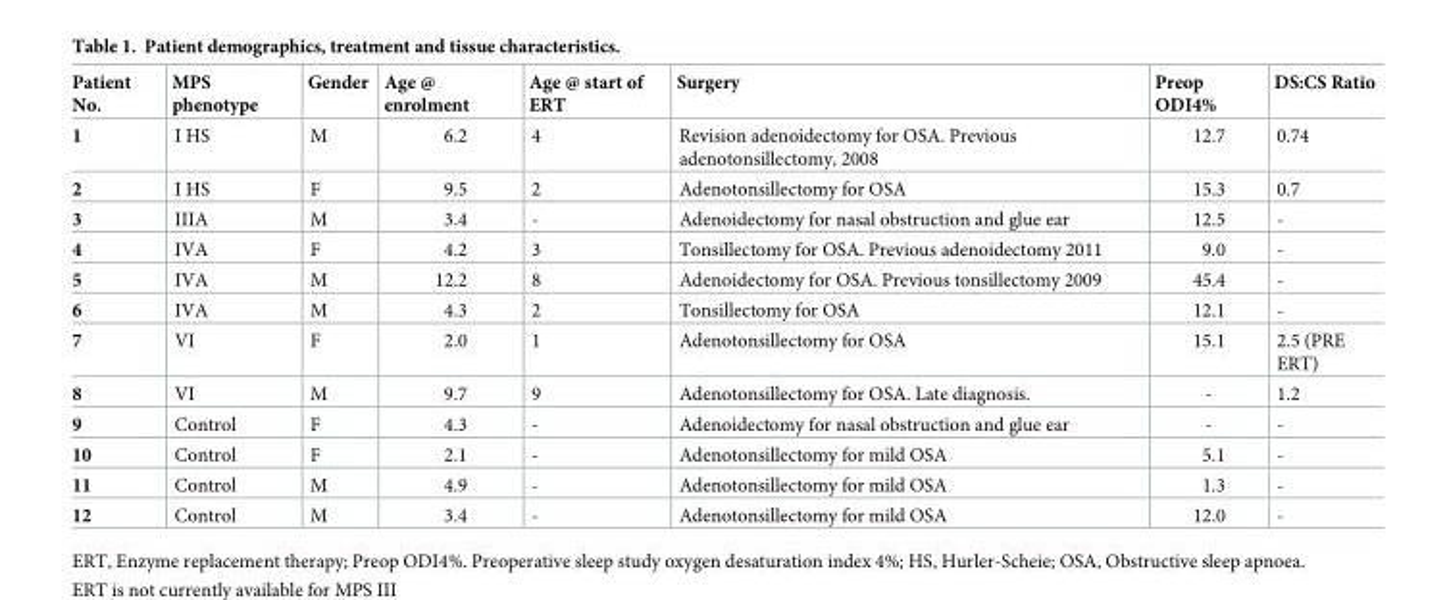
<table><thead><tr><td>Patient No.</td><td>MPS phenotype</td><td>Gender</td><td>Age @ enrolment</td><td>Age @ start of ERT</td><td>Surgery</td><td>Preop ODI4%</td><td>DS:CS Ratio</td></tr></thead><tbody><tr><td>1</td><td>I HS</td><td>M</td><td>6.2</td><td>4</td><td>Revision adenoidectomy for OSA. Previous adenotonsillectomy, 2008</td><td>12.7</td><td>0.74</td></tr><tr><td>2</td><td>I HS</td><td>F</td><td>9.5</td><td>2</td><td>Adenotonsillectomy for OSA</td><td>15.3</td><td>0.7</td></tr><tr><td>3</td><td>IIIA</td><td>M</td><td>3.4</td><td>-</td><td>Adenoidectomy for nasal obstruction and glue ear</td><td>12.5</td><td>-</td></tr><tr><td>4</td><td>IVA</td><td>F</td><td>4.2</td><td>3</td><td>Tonsillectomy for OSA. Previous adenoidectomy 2011</td><td>9.0</td><td>-</td></tr><tr><td>5</td><td>IVA</td><td>M</td><td>12.2</td><td>8</td><td>Adenoidectomy for OSA. Previous tonsillectomy 2009</td><td>45.4</td><td>-</td></tr><tr><td>6</td><td>IVA</td><td>M</td><td>4.3</td><td>2</td><td>Tonsillectomy for OSA</td><td>12.1</td><td>-</td></tr><tr><td>7</td><td>VI</td><td>F</td><td>2.0</td><td>1</td><td>Adenotonsillectomy for OSA</td><td>15.1</td><td>2.5 (PRE ERT)</td></tr><tr><td>8</td><td>VI</td><td>M</td><td>9.7</td><td>9</td><td>Adenotonsillectomy for OSA. Late diagnosis.</td><td>-</td><td>1.2</td></tr><tr><td>9</td><td>Control</td><td>F</td><td>4.3</td><td>-</td><td>Adenoidectomy for nasal obstruction and glue ear</td><td>-</td><td>-</td></tr><tr><td>10</td><td>Control</td><td>F</td><td>2.1</td><td>-</td><td>Adenotonsillectomy for mild OSA</td><td>5.1</td><td>-</td></tr><tr><td>11</td><td>Control</td><td>M</td><td>4.9</td><td>-</td><td>Adenotonsillectomy for mild OSA</td><td>1.3</td><td>-</td></tr><tr><td>12</td><td>Control</td><td>M</td><td>3.4</td><td>-</td><td>Adenotonsillectomy for mild OSA</td><td>12.0</td><td>-</td></tr></tbody></table>